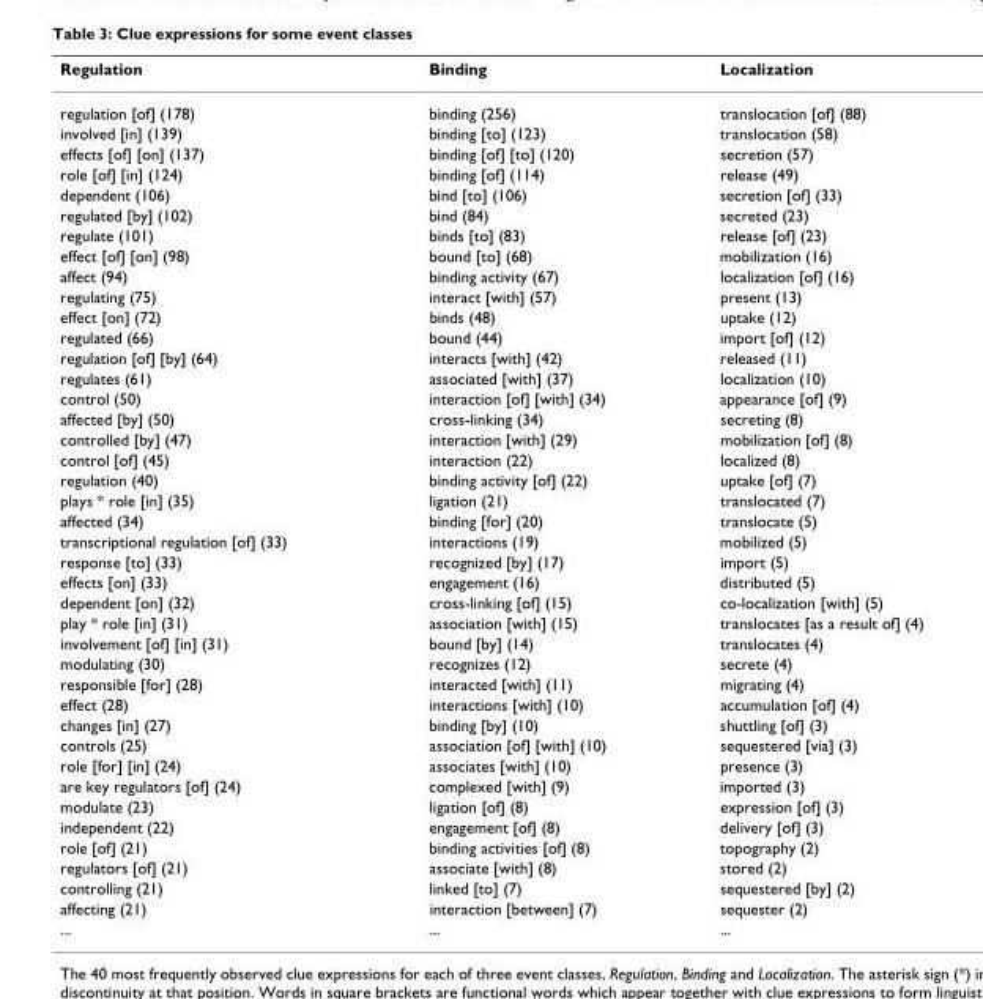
<table><thead><tr><td>Regulation</td><td>Binding</td><td>Localization</td></tr></thead><tbody><tr><td>regulation [of] (178)</td><td>binding (256)</td><td>translocation [of] (88)</td></tr><tr><td>involved [in] (139)</td><td>binding [to] (123)</td><td>translocation (58)</td></tr><tr><td>effects [of] [on] (137)</td><td>binding [of] [to] (120)</td><td>secretion (57)</td></tr><tr><td>role [of] [in] (124)</td><td>binding [of] (114)</td><td>release (49)</td></tr><tr><td>dependent (106)</td><td>bind [to] (106)</td><td>secretion [of] (33)</td></tr><tr><td>regulated [by] (102)</td><td>bind (84)</td><td>secreted (23)</td></tr><tr><td>regulate (101)</td><td>binds [to] (83)</td><td>release [of] (23)</td></tr><tr><td>effect [of] [on] (98)</td><td>bound [to] (68)</td><td>mobilization (16)</td></tr><tr><td>affect (94)</td><td>binding activity (67)</td><td>localization [of] (16)</td></tr><tr><td>regulating (75)</td><td>interact [with] (57)</td><td>present (13)</td></tr><tr><td>effect [on] (72)</td><td>binds (48)</td><td>uptake (12)</td></tr><tr><td>regulated (66)</td><td>bound (44)</td><td>import [of] (12)</td></tr><tr><td>regulation [of] [by] (64)</td><td>interacts [with] (42)</td><td>released (11)</td></tr><tr><td>regulates (61)</td><td>associated [with] (37)</td><td>localization (10)</td></tr><tr><td>control (50)</td><td>interaction [of] [with] (34)</td><td>appearance [of] (9)</td></tr><tr><td>affected [by] (50)</td><td>cross-linking (34)</td><td>secreting (8)</td></tr><tr><td>controlled [by] (47)</td><td>interaction [with] (29)</td><td>mobilization [of] (8)</td></tr><tr><td>control [of] (45)</td><td>interaction (22)</td><td>localized (8)</td></tr><tr><td>regulation (40)</td><td>binding activity [of] (22)</td><td>uptake [of] (7)</td></tr><tr><td>plays * role [in] (35)</td><td>ligation (21)</td><td>translocated (7)</td></tr><tr><td>affected (34)</td><td>binding [for] (20)</td><td>translocate (5)</td></tr><tr><td>transcriptional regulation [of] (33)</td><td>interactions (19)</td><td>mobilized (5)</td></tr><tr><td>response [to] (33)</td><td>recognized [by] (17)</td><td>import (5)</td></tr><tr><td>effects [on] (33)</td><td>engagement (16)</td><td>distributed (5)</td></tr><tr><td>dependent [on] (32)</td><td>cross-linking [of] (15)</td><td>co-localization [with] (5)</td></tr><tr><td>play * role [in] (31)</td><td>association [with] (15)</td><td>translocates [as a result of] (4)</td></tr><tr><td>involvement [of] [in] (31)</td><td>bound [by] (14)</td><td>translocates (4)</td></tr><tr><td>modulating (30)</td><td>recognizes (12)</td><td>secrete (4)</td></tr><tr><td>responsible [for] (28)</td><td>interacted [with] (11)</td><td>migrating (4)</td></tr><tr><td>effect (28)</td><td>interactions [with] (10)</td><td>accumulation [of] (4)</td></tr><tr><td>changes [in] (27)</td><td>binding [by] (10)</td><td>shuttling [of] (3)</td></tr><tr><td>controls (25)</td><td>association [of] [with] (10)</td><td>sequestered [via] (3)</td></tr><tr><td>role [for] [in] (24)</td><td>associates [with] (10)</td><td>presence (3)</td></tr><tr><td>are key regulators [of] (24)</td><td>complexed [with] (9)</td><td>imported (3)</td></tr><tr><td>modulate (23)</td><td>ligation [of] (8)</td><td>expression [of] (3)</td></tr><tr><td>independent (22)</td><td>engagement [of] (8)</td><td>delivery [of] (3)</td></tr><tr><td>role [of] (21)</td><td>binding activities [of] (8)</td><td>topography (2)</td></tr><tr><td>regulators [of] (21)</td><td>associate [with] (8)</td><td>stored (2)</td></tr><tr><td>controlling (21)</td><td>linked [to] (7)</td><td>sequestered [by] (2)</td></tr><tr><td>affecting (21)</td><td>interaction [between] (7)</td><td>sequester (2)</td></tr><tr><td>...</td><td>...</td><td>...</td></tr></tbody></table>